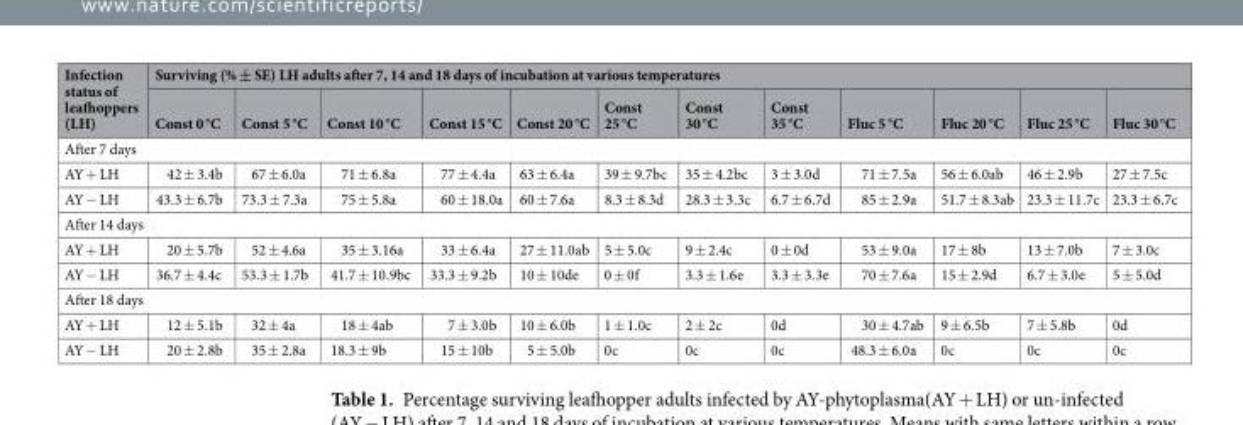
<table><thead><tr><td rowspan="2">Infection status of leafhoppers (LH)</td><td colspan="12">Surviving (% ± SE) LH adults after 7, 14 and 18 days of incubation at various temperatures</td></tr><tr><td>Const 0 °C</td><td>Const 5 °C</td><td>Const 10 °C</td><td>Const 15 °C</td><td>Const 20 °C</td><td>Const 25 °C</td><td>Const 30 °C</td><td>Const 35 °C</td><td>Fluc 5 °C</td><td>Fluc 20 °C</td><td>Fluc 25 °C</td><td>Fluc 30 °C</td></tr></thead><tbody><tr><td colspan="13">After 7 days</td></tr><tr><td>AY + LH</td><td>42 ± 3.4b</td><td>67 ± 6.0a</td><td>71 ± 6.8a</td><td>77 ± 4.4a</td><td>63 ± 6.4a</td><td>39 ± 9.7bc</td><td>35 ± 4.2bc</td><td>3 ± 3.0d</td><td>71 ± 7.5a</td><td>56 ± 6.0ab</td><td>46 ± 2.9b</td><td>27 ± 7.5c</td></tr><tr><td>AY − LH</td><td>43.3 ± 6.7b</td><td>73.3 ± 7.3a</td><td>75 ± 5.8a</td><td>60 ± 18.0a</td><td>60 ± 7.6a</td><td>8.3 ± 8.3d</td><td>28.3 ± 3.3c</td><td>6.7 ± 6.7d</td><td>85 ± 2.9a</td><td>51.7 ± 8.3ab</td><td>23.3 ± 11.7c</td><td>23.3 ± 6.7c</td></tr><tr><td colspan="13">After 14 days</td></tr><tr><td>AY + LH</td><td>20 ± 5.7b</td><td>52 ± 4.6a</td><td>35 ± 3.16a</td><td>33 ± 6.4a</td><td>27 ± 11.0ab</td><td>5 ± 5.0c</td><td>9 ± 2.4c</td><td>0 ± 0d</td><td>53 ± 9.0a</td><td>17 ± 8b</td><td>13 ± 7.0b</td><td>7 ± 3.0c</td></tr><tr><td>AY − LH</td><td>36.7 ± 4.4c</td><td>53.3 ± 1.7b</td><td>41.7 ± 10.9bc</td><td>33.3 ± 9.2b</td><td>10 ± 10de</td><td>0 ± 0f</td><td>3.3 ± 1.6e</td><td>3.3 ± 3.3e</td><td>70 ± 7.6a</td><td>15 ± 2.9d</td><td>6.7 ± 3.0e</td><td>5 ± 5.0d</td></tr><tr><td colspan="13">After 18 days</td></tr><tr><td>AY + LH</td><td>12 ± 5.1b</td><td>32 ± 4a</td><td>18 ± 4ab</td><td>7 ± 3.0b</td><td>10 ± 6.0b</td><td>1 ± 1.0c</td><td>2 ± 2c</td><td>0d</td><td>30 ± 4.7ab</td><td>9 ± 6.5b</td><td>7 ± 5.8b</td><td>0d</td></tr><tr><td>AY − LH</td><td>20 ± 2.8b</td><td>35 ± 2.8a</td><td>18.3 ± 9b</td><td>15 ± 10b</td><td>5 ± 5.0b</td><td>0c</td><td>0c</td><td>0c</td><td>48.3 ± 6.0a</td><td>0c</td><td>0c</td><td>0c</td></tr></tbody></table>